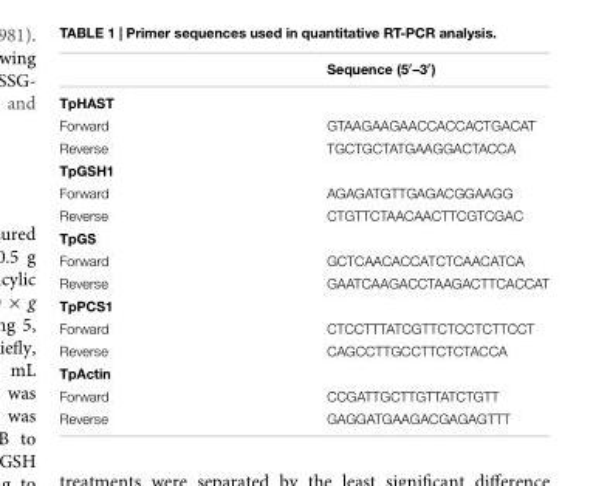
<table><thead><tr><td></td><td>Sequence (5′–3′)</td></tr></thead><tbody><tr><td colspan="2">TpHAST</td></tr><tr><td>Forward</td><td>GTAAGAAGAACCACCACTGACAT</td></tr><tr><td>Reverse</td><td>TGCTGCTATGAAGGACTACCA</td></tr><tr><td colspan="2">TpGSH1</td></tr><tr><td>Forward</td><td>AGAGATGTTGAGACGGAAGG</td></tr><tr><td>Reverse</td><td>CTGTTCTAACAACTTCGTCGAC</td></tr><tr><td colspan="2">TpGS</td></tr><tr><td>Forward</td><td>GCTCAACACCATCTCAACATCA</td></tr><tr><td>Reverse</td><td>GAATCAAGACCTAAGACTTCACCAT</td></tr><tr><td colspan="2">TpPCS1</td></tr><tr><td>Forward</td><td>CTCCTTTATCGTTCTCCTCTTCCT</td></tr><tr><td>Reverse</td><td>CAGCCTTGCCTTCTCTACCA</td></tr><tr><td colspan="2">TpActin</td></tr><tr><td>Forward</td><td>CCGATTGCTTGTTATCTGTT</td></tr><tr><td>Reverse</td><td>GAGGATGAAGACGAGAGTTT</td></tr></tbody></table>